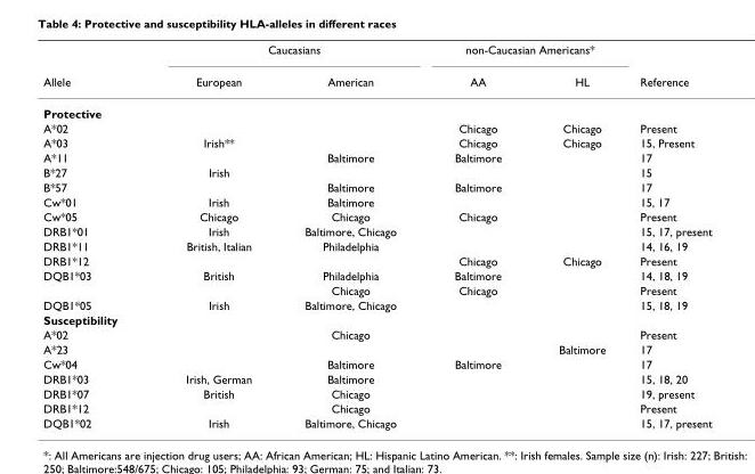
<table><thead><tr><td rowspan="2">Allele</td><td colspan="2">Caucasians</td><td colspan="2">non-Caucasian Americans*</td><td rowspan="2">Reference</td></tr><tr><td>European</td><td>American</td><td>AA</td><td>HL</td></tr></thead><tbody><tr><td colspan="6">Protective</td></tr><tr><td>A*02</td><td></td><td></td><td>Chicago</td><td>Chicago</td><td>Present</td></tr><tr><td>A*03</td><td>Irish**</td><td></td><td>Chicago</td><td>Chicago</td><td>15, Present</td></tr><tr><td>A*11</td><td></td><td>Baltimore</td><td>Baltimore</td><td></td><td>17</td></tr><tr><td>B*27</td><td>Irish</td><td></td><td></td><td></td><td>15</td></tr><tr><td>B*57</td><td></td><td>Baltimore</td><td>Baltimore</td><td></td><td>17</td></tr><tr><td>Cw*01</td><td>Irish</td><td>Baltimore</td><td></td><td></td><td>15, 17</td></tr><tr><td>Cw*05</td><td>Chicago</td><td>Chicago</td><td>Chicago</td><td></td><td>Present</td></tr><tr><td>DRB1*01</td><td>Irish</td><td>Baltimore, Chicago</td><td></td><td></td><td>15, 17, present</td></tr><tr><td>DRB1*11</td><td>British, Italian</td><td>Philadelphia</td><td></td><td></td><td>14, 16, 19</td></tr><tr><td>DRB1*12</td><td></td><td></td><td>Chicago</td><td>Chicago</td><td>Present</td></tr><tr><td rowspan="2">DQB1*03</td><td>British</td><td>Philadelphia</td><td>Baltimore</td><td></td><td>14, 18, 19</td></tr><tr><td></td><td>Chicago</td><td>Chicago</td><td></td><td>Present</td></tr><tr><td>DQB1*05</td><td>Irish</td><td>Baltimore, Chicago</td><td></td><td></td><td>15, 18, 19</td></tr><tr><td colspan="6">Susceptibility</td></tr><tr><td>A*02</td><td></td><td>Chicago</td><td></td><td></td><td>Present</td></tr><tr><td>A*23</td><td></td><td></td><td></td><td>Baltimore</td><td>17</td></tr><tr><td>Cw*04</td><td></td><td>Baltimore</td><td>Baltimore</td><td></td><td>17</td></tr><tr><td>DRB1*03</td><td>Irish, German</td><td>Baltimore</td><td></td><td></td><td>15, 18, 20</td></tr><tr><td>DRB1*07</td><td>British</td><td>Chicago</td><td></td><td></td><td>19, present</td></tr><tr><td>DRB1*12</td><td></td><td>Chicago</td><td></td><td></td><td>Present</td></tr><tr><td>DQB1*02</td><td>Irish</td><td>Baltimore, Chicago</td><td></td><td></td><td>15, 17, present</td></tr></tbody></table>